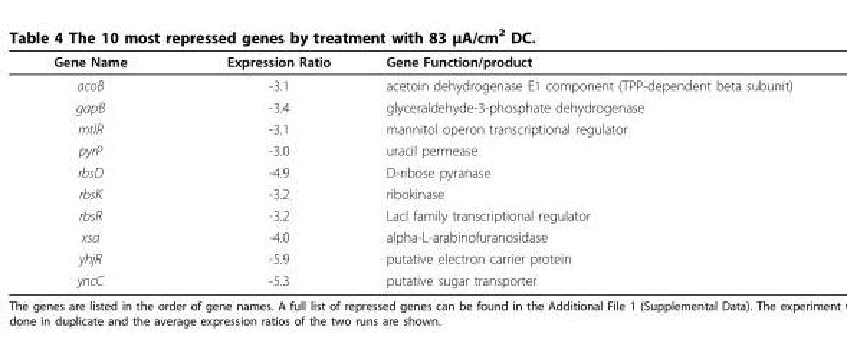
<table><thead><tr><td>Gene Name</td><td>Expression Ratio</td><td>Gene Function/product</td></tr></thead><tbody><tr><td>acoB</td><td>-3.1</td><td>acetoin dehydrogenase E1 component (TPP-dependent beta subunit)</td></tr><tr><td>gapB</td><td>-3.4</td><td>glyceraldehyde-3-phosphate dehydrogenase</td></tr><tr><td>mtlR</td><td>-3.1</td><td>mannitol operon transcriptional regulator</td></tr><tr><td>pyrP</td><td>-3.0</td><td>uracil permease</td></tr><tr><td>rbsD</td><td>-4.9</td><td>D-ribose pyranase</td></tr><tr><td>rbsK</td><td>-3.2</td><td>ribokinase</td></tr><tr><td>rbsR</td><td>-3.2</td><td>LacI family transcriptional regulator</td></tr><tr><td>xsa</td><td>-4.0</td><td>alpha-L-arabinofuranosidase</td></tr><tr><td>yhjR</td><td>-5.9</td><td>putative electron carrier protein</td></tr><tr><td>yncC</td><td>-5.3</td><td>putative sugar transporter</td></tr></tbody></table>